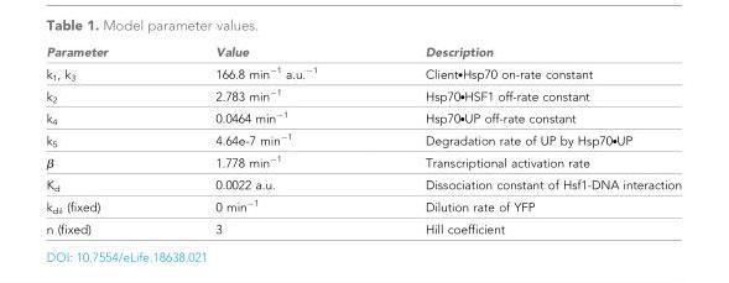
<table><thead><tr><td>Parameter</td><td>Value</td><td>Description</td></tr></thead><tbody><tr><td>k<sub>1</sub>, k<sub>3</sub></td><td>166.8 min<sup>−1</sup> a.u.<sup>−1</sup></td><td>Client.Hsp70 on-rate constant</td></tr><tr><td>k<sub>2</sub></td><td>2.783 min<sup>−1</sup></td><td>Hsp70.HSF1 off-rate constant</td></tr><tr><td>k<sub>4</sub></td><td>0.0464 min<sup>−1</sup></td><td>Hsp70.UP off-rate constant</td></tr><tr><td>k<sub>5</sub></td><td>4.64e-7 min<sup>−1</sup></td><td>Degradation rate of UP by Hsp70.UP</td></tr><tr><td>β</td><td>1.778 min<sup>−1</sup></td><td>Transcriptional activation rate</td></tr><tr><td>K<sub>d</sub></td><td>0.0022 a.u.</td><td>Dissociation constant of Hsf1-DNA interaction</td></tr><tr><td>k<sub>dil</sub> (fixed)</td><td>0 min<sup>−1</sup></td><td>Dilution rate of YFP</td></tr><tr><td>n (fixed)</td><td>3</td><td>Hill coefficient</td></tr></tbody></table>